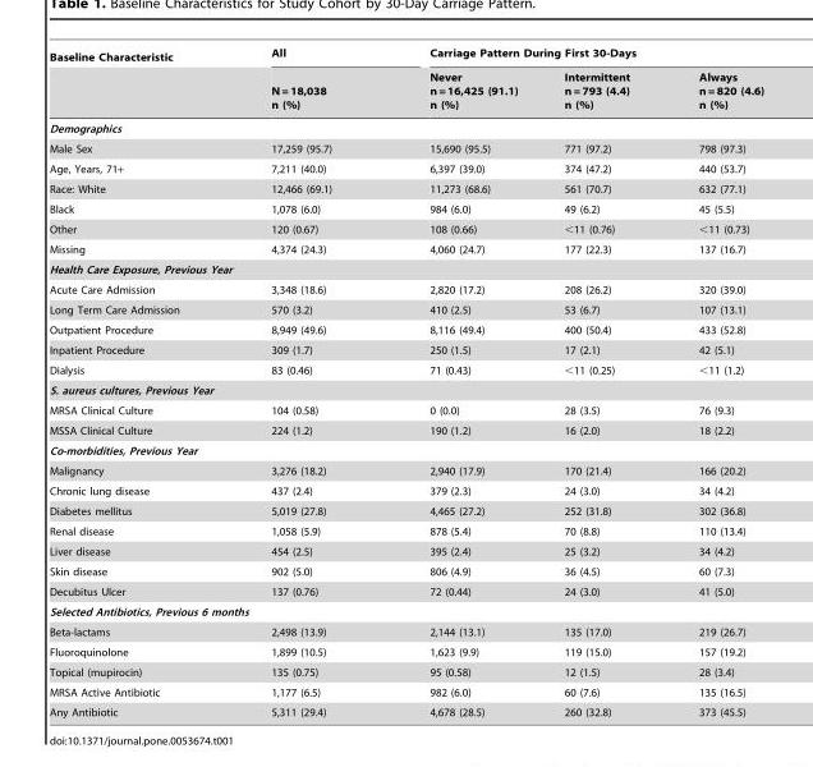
<table><thead><tr><td rowspan="2">Baseline Characteristic</td><td rowspan="2">All N = 18,038 n (%)</td><td colspan="3">Carriage Pattern During First 30-Days</td></tr><tr><td>Never n = 16,425 (91.1) n (%)</td><td>Intermittent n = 793 (4.4) n (%)</td><td>Always n = 820 (4.6) n (%)</td></tr></thead><tbody><tr><td colspan="5">Demographics</td></tr><tr><td>Male Sex</td><td>17,259 (95.7)</td><td>15,690 (95.5)</td><td>771 (97.2)</td><td>798 (97.3)</td></tr><tr><td>Age, Years, 71+</td><td>7,211 (40.0)</td><td>6,397 (39.0)</td><td>374 (47.2)</td><td>440 (53.7)</td></tr><tr><td>Race: White</td><td>12,466 (69.1)</td><td>11,273 (68.6)</td><td>561 (70.7)</td><td>632 (77.1)</td></tr><tr><td>Black</td><td>1,078 (6.0)</td><td>984 (6.0)</td><td>49 (6.2)</td><td>45 (5.5)</td></tr><tr><td>Other</td><td>120 (0.67)</td><td>108 (0.66)</td><td>&lt;11 (0.76)</td><td>&lt;11 (0.73)</td></tr><tr><td>Missing</td><td>4,374 (24.3)</td><td>4,060 (24.7)</td><td>177 (22.3)</td><td>137 (16.7)</td></tr><tr><td colspan="5">Health Care Exposure, Previous Year</td></tr><tr><td>Acute Care Admission</td><td>3,348 (18.6)</td><td>2,820 (17.2)</td><td>208 (26.2)</td><td>320 (39.0)</td></tr><tr><td>Long Term Care Admission</td><td>570 (3.2)</td><td>410 (2.5)</td><td>53 (6.7)</td><td>107 (13.1)</td></tr><tr><td>Outpatient Procedure</td><td>8,949 (49.6)</td><td>8,116 (49.4)</td><td>400 (50.4)</td><td>433 (52.8)</td></tr><tr><td>Inpatient Procedure</td><td>309 (1.7)</td><td>250 (1.5)</td><td>17 (2.1)</td><td>42 (5.1)</td></tr><tr><td>Dialysis</td><td>83 (0.46)</td><td>71 (0.43)</td><td>&lt;11 (0.25)</td><td>&lt;11 (1.2)</td></tr><tr><td colspan="5">S. aureus cultures, Previous Year</td></tr><tr><td>MRSA Clinical Culture</td><td>104 (0.58)</td><td>0 (0.0)</td><td>28 (3.5)</td><td>76 (9.3)</td></tr><tr><td>MSSA Clinical Culture</td><td>224 (1.2)</td><td>190 (1.2)</td><td>16 (2.0)</td><td>18 (2.2)</td></tr><tr><td colspan="5">Co-morbidities, Previous Year</td></tr><tr><td>Malignancy</td><td>3,276 (18.2)</td><td>2,940 (17.9)</td><td>170 (21.4)</td><td>166 (20.2)</td></tr><tr><td>Chronic lung disease</td><td>437 (2.4)</td><td>379 (2.3)</td><td>24 (3.0)</td><td>34 (4.2)</td></tr><tr><td>Diabetes mellitus</td><td>5,019 (27.8)</td><td>4,465 (27.2)</td><td>252 (31.8)</td><td>302 (36.8)</td></tr><tr><td>Renal disease</td><td>1,058 (5.9)</td><td>878 (5.4)</td><td>70 (8.8)</td><td>110 (13.4)</td></tr><tr><td>Liver disease</td><td>454 (2.5)</td><td>395 (2.4)</td><td>25 (3.2)</td><td>34 (4.2)</td></tr><tr><td>Skin disease</td><td>902 (5.0)</td><td>806 (4.9)</td><td>36 (4.5)</td><td>60 (7.3)</td></tr><tr><td>Decubitus Ulcer</td><td>137 (0.76)</td><td>72 (0.44)</td><td>24 (3.0)</td><td>41 (5.0)</td></tr><tr><td colspan="5">Selected Antibiotics, Previous 6 months</td></tr><tr><td>Beta-lactams</td><td>2,498 (13.9)</td><td>2,144 (13.1)</td><td>135 (17.0)</td><td>219 (26.7)</td></tr><tr><td>Fluoroquinolone</td><td>1,899 (10.5)</td><td>1,623 (9.9)</td><td>119 (15.0)</td><td>157 (19.2)</td></tr><tr><td>Topical (mupirocin)</td><td>135 (0.75)</td><td>95 (0.58)</td><td>12 (1.5)</td><td>28 (3.4)</td></tr><tr><td>MRSA Active Antibiotic</td><td>1,177 (6.5)</td><td>982 (6.0)</td><td>60 (7.6)</td><td>135 (16.5)</td></tr><tr><td>Any Antibiotic</td><td>5,311 (29.4)</td><td>4,678 (28.5)</td><td>260 (32.8)</td><td>373 (45.5)</td></tr></tbody></table>